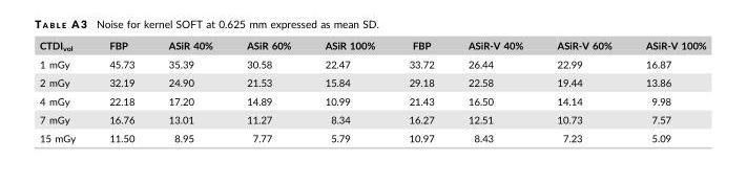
<table><thead><tr><td>CTDI<sub>vol</sub></td><td>FBP</td><td>ASiR 40%</td><td>ASiR 60%</td><td>ASiR 100%</td><td>FBP</td><td>ASiR-V 40%</td><td>ASiR-V 60%</td><td>ASiR-V 100%</td></tr></thead><tbody><tr><td>1 mGy</td><td>45.73</td><td>35.39</td><td>30.58</td><td>22.47</td><td>33.72</td><td>26.44</td><td>22.99</td><td>16.87</td></tr><tr><td>2 mGy</td><td>32.19</td><td>24.90</td><td>21.53</td><td>15.84</td><td>29.18</td><td>22.58</td><td>19.44</td><td>13.86</td></tr><tr><td>4 mGy</td><td>22.18</td><td>17.20</td><td>14.89</td><td>10.99</td><td>21.43</td><td>16.50</td><td>14.14</td><td>9.98</td></tr><tr><td>7 mGy</td><td>16.76</td><td>13.01</td><td>11.27</td><td>8.34</td><td>16.27</td><td>12.51</td><td>10.73</td><td>7.57</td></tr><tr><td>15 mGy</td><td>11.50</td><td>8.95</td><td>7.77</td><td>5.79</td><td>10.97</td><td>8.43</td><td>7.23</td><td>5.09</td></tr></tbody></table>